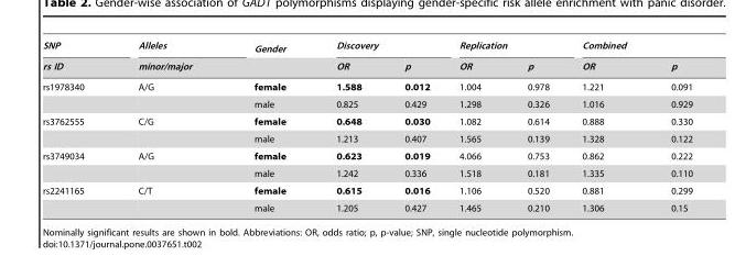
<table><thead><tr><td rowspan="2">SNP rs ID</td><td rowspan="2">Alleles minor/major</td><td rowspan="2">Gender</td><td colspan="2">Discovery</td><td colspan="2">Replication</td><td colspan="2">Combined</td></tr><tr><td>OR</td><td>p</td><td>OR</td><td>p</td><td>OR</td><td>p</td></tr></thead><tbody><tr><td rowspan="2">rs1978340</td><td>A/G</td><td>female</td><td>1.588</td><td>0.012</td><td>1.004</td><td>0.978</td><td>1.221</td><td>0.091</td></tr><tr><td></td><td>male</td><td>0.825</td><td>0.429</td><td>1.298</td><td>0.326</td><td>1.016</td><td>0.929</td></tr><tr><td rowspan="2">rs3762555</td><td>C/G</td><td>female</td><td>0.648</td><td>0.030</td><td>1.082</td><td>0.614</td><td>0.888</td><td>0.330</td></tr><tr><td></td><td>male</td><td>1.213</td><td>0.407</td><td>1.565</td><td>0.139</td><td>1.328</td><td>0.122</td></tr><tr><td rowspan="2">rs3749034</td><td>A/G</td><td>female</td><td>0.623</td><td>0.019</td><td>4.066</td><td>0.753</td><td>0.862</td><td>0.222</td></tr><tr><td></td><td>male</td><td>1.242</td><td>0.336</td><td>1.518</td><td>0.181</td><td>1.335</td><td>0.110</td></tr><tr><td rowspan="2">rs2241165</td><td>C/T</td><td>female</td><td>0.615</td><td>0.016</td><td>1.106</td><td>0.520</td><td>0.881</td><td>0.299</td></tr><tr><td></td><td>male</td><td>1.205</td><td>0.427</td><td>1.465</td><td>0.210</td><td>1.306</td><td>0.15</td></tr></tbody></table>